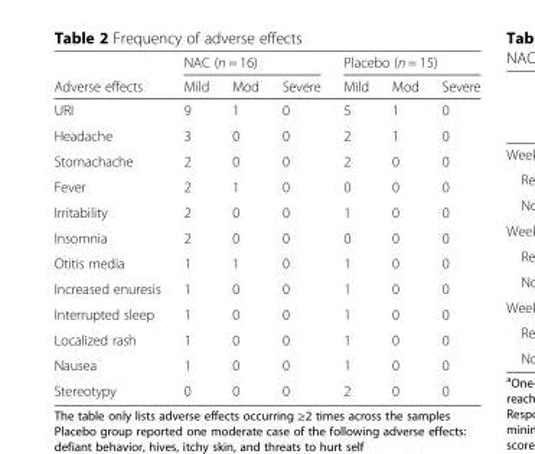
<table><thead><tr><td rowspan="2">Adverse effects</td><td colspan="3">NAC (n = 16)</td><td colspan="3">Placebo (n = 15)</td></tr><tr><td>Mild</td><td>Mod</td><td>Severe</td><td>Mild</td><td>Mod</td><td>Severe</td></tr></thead><tbody><tr><td>URI</td><td>9</td><td>1</td><td>0</td><td>5</td><td>1</td><td>0</td></tr><tr><td>Headache</td><td>3</td><td>0</td><td>0</td><td>2</td><td>1</td><td>0</td></tr><tr><td>Stomachache</td><td>2</td><td>0</td><td>0</td><td>2</td><td>0</td><td>0</td></tr><tr><td>Fever</td><td>2</td><td>1</td><td>0</td><td>0</td><td>0</td><td>0</td></tr><tr><td>Irritability</td><td>2</td><td>0</td><td>0</td><td>1</td><td>0</td><td>0</td></tr><tr><td>Insomnia</td><td>2</td><td>0</td><td>0</td><td>0</td><td>0</td><td>0</td></tr><tr><td>Otitis media</td><td>1</td><td>1</td><td>0</td><td>1</td><td>0</td><td>0</td></tr><tr><td>Increased enuresis</td><td>1</td><td>0</td><td>0</td><td>1</td><td>0</td><td>0</td></tr><tr><td>Interrupted sleep</td><td>1</td><td>0</td><td>0</td><td>1</td><td>0</td><td>0</td></tr><tr><td>Localized rash</td><td>1</td><td>0</td><td>0</td><td>1</td><td>0</td><td>0</td></tr><tr><td>Nausea</td><td>1</td><td>0</td><td>0</td><td>1</td><td>0</td><td>0</td></tr><tr><td>Stereotypy</td><td>0</td><td>0</td><td>0</td><td>2</td><td>0</td><td>0</td></tr></tbody></table>